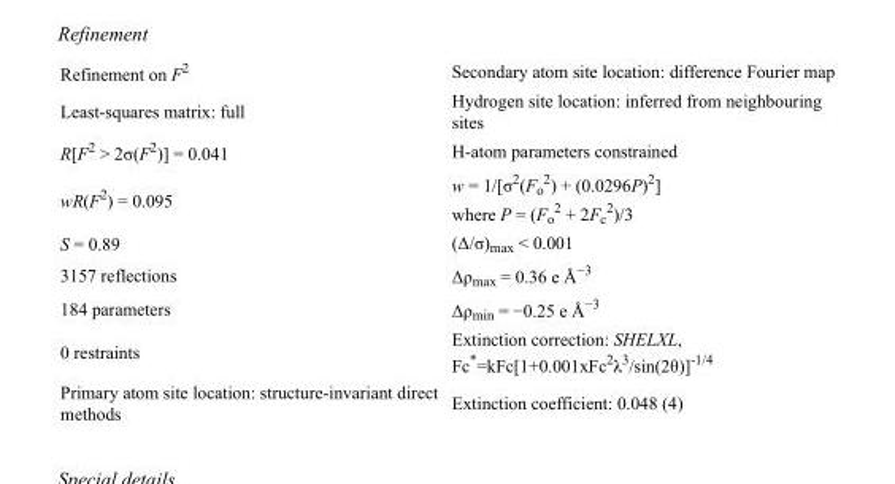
<table><tbody><tr><td>Refinement on F<sup>2</sup></td><td>Secondary atom site location: difference Fourier map</td></tr><tr><td>Least-squares matrix: full</td><td>Hydrogen site location: inferred from neighbouring sites</td></tr><tr><td>R[F<sup>2</sup> &gt; 2σ(F<sup>2</sup>)] = 0.041</td><td>H-atom parameters constrained</td></tr><tr><td>wR(F<sup>2</sup>) = 0.095</td><td>w = 1/[σ<sup>2</sup>(F<sub>o</sub> <sup>2</sup>) + (0.0296P)<sup>2</sup>] where P = (F<sub>o</sub> <sup>2</sup> + 2F<sub>c</sub> <sup>2</sup>)/3</td></tr><tr><td>S = 0.89</td><td>(Δ/σ)<sub>max</sub> &lt; 0.001</td></tr><tr><td>3157 reflections</td><td>Δρ<sub>max</sub> = 0.36 e Å<sup>−3</sup></td></tr><tr><td>184 parameters</td><td>Δρ<sub>min</sub> = −0.25 e Å<sup>−3</sup></td></tr><tr><td>0 restraints</td><td>Extinction correction: SHELXL, Fc*=kFc[1+0.001xFc<sup>2</sup>λ<sup>3</sup>/sin(2θ)]<sup>-1/4</sup></td></tr><tr><td>Primary atom site location: structure-invariant direct methods</td><td>Extinction coefficient: 0.048 (4)</td></tr></tbody></table>